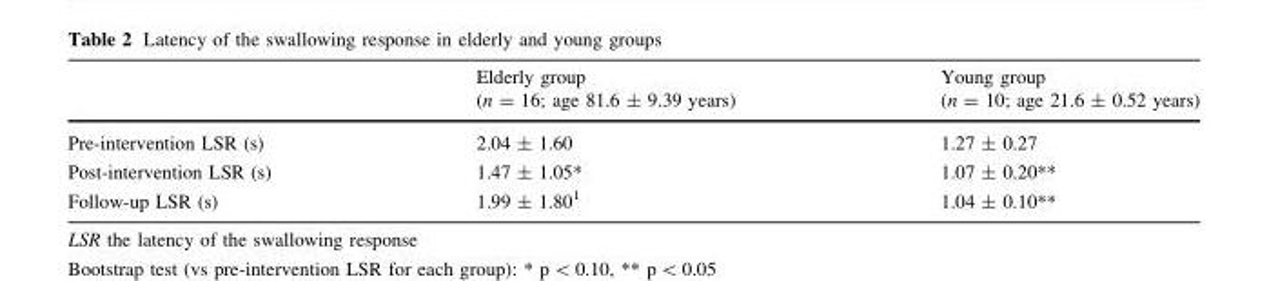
<table><thead><tr><td></td><td>Elderly group (n = 16; age 81.6 ± 9.39 years)</td><td>Young group (n = 10; age 21.6 ± 0.52 years)</td></tr></thead><tbody><tr><td>Pre-intervention LSR (s)</td><td>2.04 ± 1.60</td><td>1.27 ± 0.27</td></tr><tr><td>Post-intervention LSR (s)</td><td>1.47 ± 1.05*</td><td>1.07 ± 0.20**</td></tr><tr><td>Follow-up LSR (s)</td><td>1.99 ± 1.80<sup>1</sup></td><td>1.04 ± 0.10**</td></tr></tbody></table>